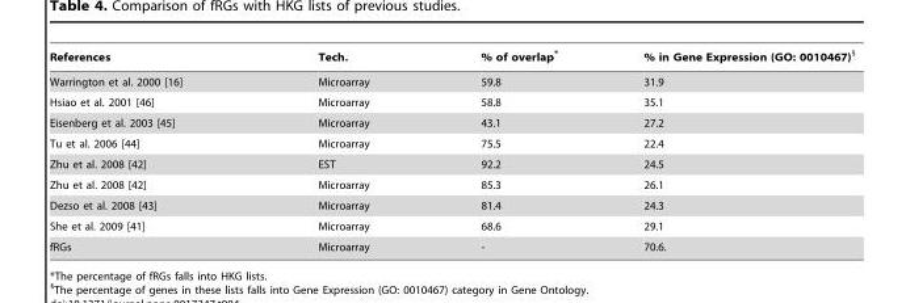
<table><thead><tr><td>References</td><td>Tech.</td><td>% of overlap*</td><td>% in Gene Expression (GO: 0010467)§</td></tr></thead><tbody><tr><td>Warrington et al. 2000 [16]</td><td>Microarray</td><td>59.8</td><td>31.9</td></tr><tr><td>Hsiao et al. 2001 [46]</td><td>Microarray</td><td>58.8</td><td>35.1</td></tr><tr><td>Eisenberg et al. 2003 [45]</td><td>Microarray</td><td>43.1</td><td>27.2</td></tr><tr><td>Tu et al. 2006 [44]</td><td>Microarray</td><td>75.5</td><td>22.4</td></tr><tr><td>Zhu et al. 2008 [42]</td><td>EST</td><td>92.2</td><td>24.5</td></tr><tr><td>Zhu et al. 2008 [42]</td><td>Microarray</td><td>85.3</td><td>26.1</td></tr><tr><td>Dezso et al. 2008 [43]</td><td>Microarray</td><td>81.4</td><td>24.3</td></tr><tr><td>She et al. 2009 [41]</td><td>Microarray</td><td>68.6</td><td>29.1</td></tr><tr><td>fRGs</td><td>Microarray</td><td>-</td><td>70.6.</td></tr></tbody></table>